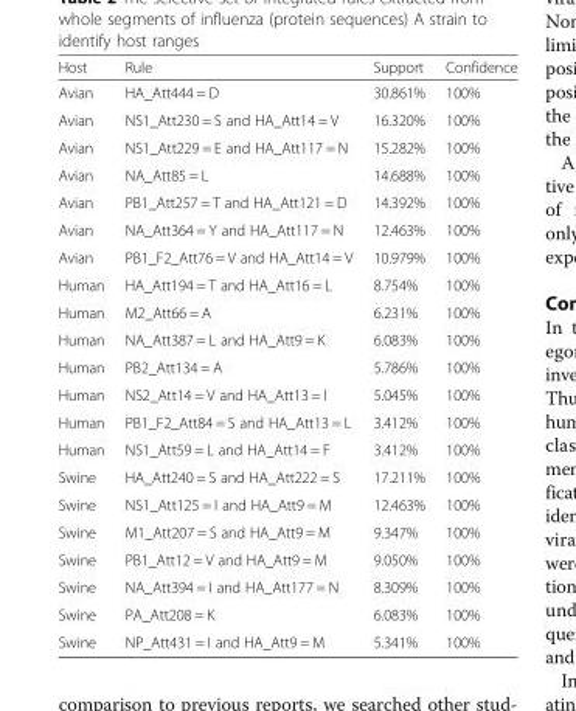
<table><thead><tr><td>Host</td><td>Rule</td><td>Support</td><td>Confidence</td></tr></thead><tbody><tr><td>Avian</td><td>HA_Att444 = D</td><td>30.861%</td><td>100%</td></tr><tr><td>Avian</td><td>NS1_Att230 = S and HA_Att14 = V</td><td>16.320%</td><td>100%</td></tr><tr><td>Avian</td><td>NS1_Att229 = E and HA_Att117 = N</td><td>15.282%</td><td>100%</td></tr><tr><td>Avian</td><td>NA_Att85 = L</td><td>14.688%</td><td>100%</td></tr><tr><td>Avian</td><td>PB1_Att257 = T and HA_Att121 = D</td><td>14.392%</td><td>100%</td></tr><tr><td>Avian</td><td>NA_Att364 = Y and HA_Att117 = N</td><td>12.463%</td><td>100%</td></tr><tr><td>Avian</td><td>PB1_F2_Att76 = V and HA_Att14 = V</td><td>10.979%</td><td>100%</td></tr><tr><td>Human</td><td>HA_Att194 = T and HA_Att16 = L</td><td>8.754%</td><td>100%</td></tr><tr><td>Human</td><td>M2_Att66 = A</td><td>6.231%</td><td>100%</td></tr><tr><td>Human</td><td>NA_Att387 = L and HA_Att9 = K</td><td>6.083%</td><td>100%</td></tr><tr><td>Human</td><td>PB2_Att134 = A</td><td>5.786%</td><td>100%</td></tr><tr><td>Human</td><td>NS2_Att14 = V and HA_Att13 = I</td><td>5.045%</td><td>100%</td></tr><tr><td>Human</td><td>PB1_F2_Att84 = S and HA_Att13 = L</td><td>3.412%</td><td>100%</td></tr><tr><td>Human</td><td>NS1_Att59 = L and HA_Att14 = F</td><td>3.412%</td><td>100%</td></tr><tr><td>Swine</td><td>HA_Att240 = S and HA_Att222 = S</td><td>17.211%</td><td>100%</td></tr><tr><td>Swine</td><td>NS1_Att125 = I and HA_Att9 = M</td><td>12.463%</td><td>100%</td></tr><tr><td>Swine</td><td>M1_Att207 = S and HA_Att9 = M</td><td>9.347%</td><td>100%</td></tr><tr><td>Swine</td><td>PB1_Att12 = V and HA_Att9 = M</td><td>9.050%</td><td>100%</td></tr><tr><td>Swine</td><td>NA_Att394 = I and HA_Att177 = N</td><td>8.309%</td><td>100%</td></tr><tr><td>Swine</td><td>PA_Att208 = K</td><td>6.083%</td><td>100%</td></tr><tr><td>Swine</td><td>NP_Att431 = I and HA_Att9 = M</td><td>5.341%</td><td>100%</td></tr></tbody></table>